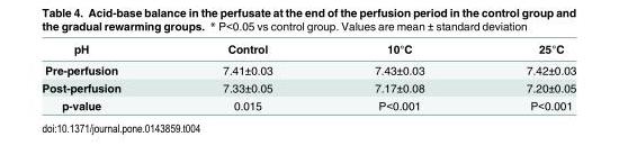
<table><thead><tr><td>pH</td><td>Control</td><td>10°C</td><td>25°C</td></tr></thead><tbody><tr><td>Pre-perfusion</td><td>7.41±0.03</td><td>7.43±0.03</td><td>7.42±0.03</td></tr><tr><td>Post-perfusion</td><td>7.33±0.05</td><td>7.17±0.08</td><td>7.20±0.05</td></tr><tr><td>p-value</td><td>0.015</td><td>P&lt;0.001</td><td>P&lt;0.001</td></tr></tbody></table>